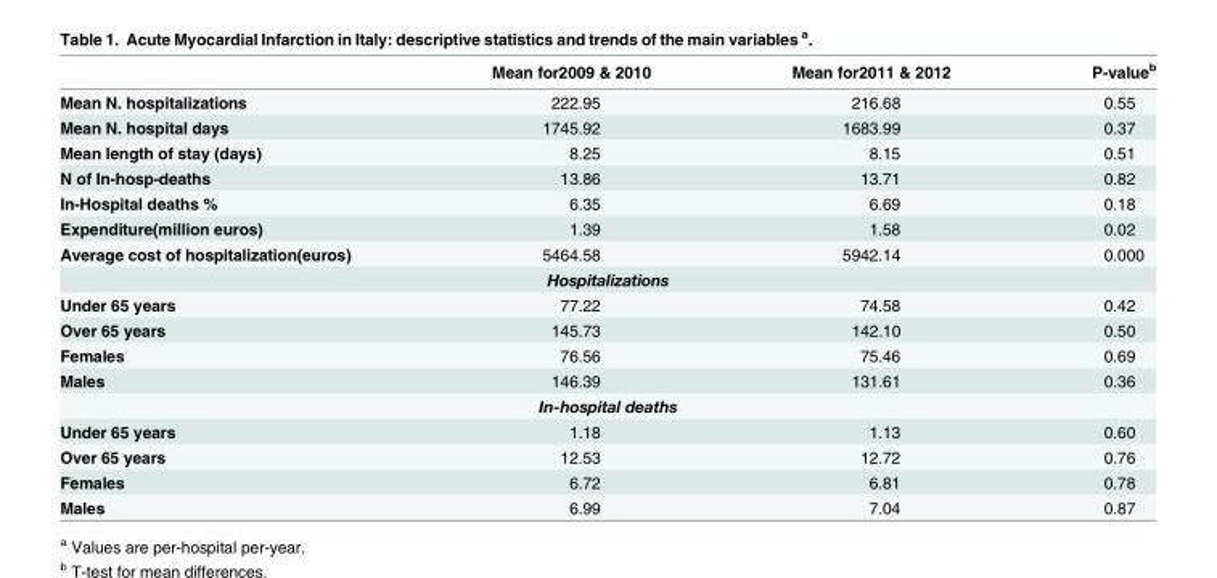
<table><thead><tr><td></td><td>Mean for2009 &amp; 2010</td><td>Mean for2011 &amp; 2012</td><td>P-value<sup>b</sup></td></tr></thead><tbody><tr><td>Mean N. hospitalizations</td><td>222.95</td><td>216.68</td><td>0.55</td></tr><tr><td>Mean N. hospital days</td><td>1745.92</td><td>1683.99</td><td>0.37</td></tr><tr><td>Mean length of stay (days)</td><td>8.25</td><td>8.15</td><td>0.51</td></tr><tr><td>N of In-hosp-deaths</td><td>13.86</td><td>13.71</td><td>0.82</td></tr><tr><td>In-Hospital deaths %</td><td>6.35</td><td>6.69</td><td>0.18</td></tr><tr><td>Expenditure(million euros)</td><td>1.39</td><td>1.58</td><td>0.02</td></tr><tr><td>Average cost of hospitalization(euros)</td><td>5464.58</td><td>5942.14</td><td>0.000</td></tr><tr><td colspan="4">Hospitalizations</td></tr><tr><td>Under 65 years</td><td>77.22</td><td>74.58</td><td>0.42</td></tr><tr><td>Over 65 years</td><td>145.73</td><td>142.10</td><td>0.50</td></tr><tr><td>Females</td><td>76.56</td><td>75.46</td><td>0.69</td></tr><tr><td>Males</td><td>146.39</td><td>131.61</td><td>0.36</td></tr><tr><td colspan="4">In-hospital deaths</td></tr><tr><td>Under 65 years</td><td>1.18</td><td>1.13</td><td>0.60</td></tr><tr><td>Over 65 years</td><td>12.53</td><td>12.72</td><td>0.76</td></tr><tr><td>Females</td><td>6.72</td><td>6.81</td><td>0.78</td></tr><tr><td>Males</td><td>6.99</td><td>7.04</td><td>0.87</td></tr></tbody></table>